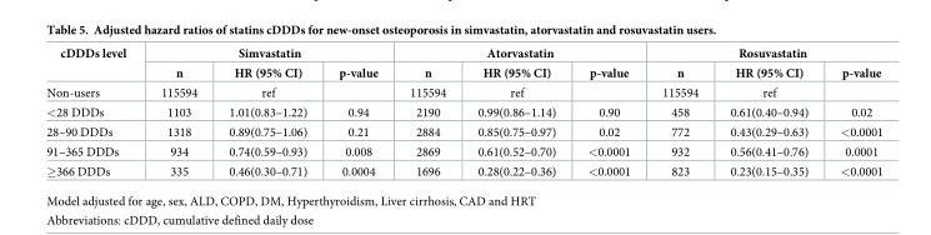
<table><thead><tr><td rowspan="2">cDDDs level</td><td colspan="3">Simvastatin</td><td colspan="3">Atorvastatin</td><td colspan="3">Rosuvastatin</td></tr><tr><td>n</td><td>HR (95% CI)</td><td>p-value</td><td>n</td><td>HR (95% CI)</td><td>p-value</td><td>n</td><td>HR (95% CI)</td><td>p-value</td></tr></thead><tbody><tr><td>Non-users</td><td>115594</td><td>ref</td><td></td><td>115594</td><td>ref</td><td></td><td>115594</td><td>ref</td><td></td></tr><tr><td>&lt;28 DDDs</td><td>1103</td><td>1.01(0.83–1.22)</td><td>0.94</td><td>2190</td><td>0.99(0.86–1.14)</td><td>0.90</td><td>458</td><td>0.61(0.40–0.94)</td><td>0.02</td></tr><tr><td>28–90 DDDs</td><td>1318</td><td>0.89(0.75–1.06)</td><td>0.21</td><td>2884</td><td>0.85(0.75–0.97)</td><td>0.02</td><td>772</td><td>0.43(0.29–0.63)</td><td>&lt;0.0001</td></tr><tr><td>91–365 DDDs</td><td>934</td><td>0.74(0.59–0.93)</td><td>0.008</td><td>2869</td><td>0.61(0.52–0.70)</td><td>&lt;0.0001</td><td>932</td><td>0.56(0.41–0.76)</td><td>0.0001</td></tr><tr><td>≥366 DDDs</td><td>335</td><td>0.46(0.30–0.71)</td><td>0.0004</td><td>1696</td><td>0.28(0.22–0.36)</td><td>&lt;0.0001</td><td>823</td><td>0.23(0.15–0.35)</td><td>&lt;0.0001</td></tr></tbody></table>